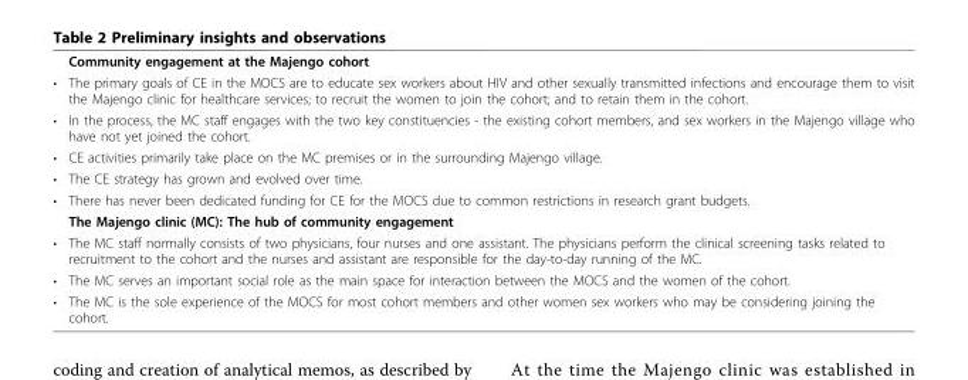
<table><thead><tr><td></td><td>Community engagement at the Majengo cohort</td></tr></thead><tbody><tr><td>•</td><td>The primary goals of CE in the MOCS are to educate sex workers about HIV and other sexually transmitted infections and encourage them to visit the Majengo clinic for healthcare services; to recruit the women to join the cohort; and to retain them in the cohort.</td></tr><tr><td>•</td><td>In the process, the MC staff engages with the two key constituencies - the existing cohort members, and sex workers in the Majengo village who have not yet joined the cohort.</td></tr><tr><td>•</td><td>CE activities primarily take place on the MC premises or in the surrounding Majengo village.</td></tr><tr><td>•</td><td>The CE strategy has grown and evolved over time.</td></tr><tr><td rowspan="2">•</td><td>There has never been dedicated funding for CE for the MOCS due to common restrictions in research grant budgets.</td></tr><tr><td>The Majengo clinic (MC): The hub of community engagement</td></tr><tr><td>•</td><td>The MC staff normally consists of two physicians, four nurses and one assistant. The physicians perform the clinical screening tasks related to recruitment to the cohort and the nurses and assistant are responsible for the day-to-day running of the MC.</td></tr><tr><td>•</td><td>The MC serves an important social role as the main space for interaction between the MOCS and the women of the cohort.</td></tr><tr><td>•</td><td>The MC is the sole experience of the MOCS for most cohort members and other women sex workers who may be considering joining the cohort.</td></tr></tbody></table>